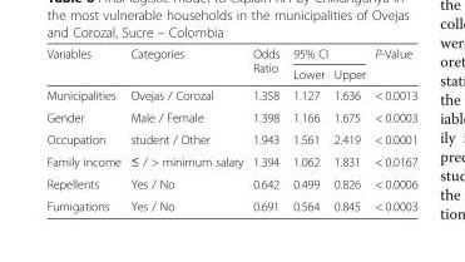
<table><thead><tr><td rowspan="2">Variables</td><td rowspan="2">Categories</td><td rowspan="2">Odds Ratio</td><td colspan="2">95% CI</td><td rowspan="2">P-Value</td></tr><tr><td>Lower</td><td>Upper</td></tr></thead><tbody><tr><td>Municipalities</td><td>Ovejas / Corozal</td><td>1.358</td><td>1.127</td><td>1.636</td><td>&lt; 0.0013</td></tr><tr><td>Gender</td><td>Male / Female</td><td>1.398</td><td>1.166</td><td>1.675</td><td>&lt; 0.0003</td></tr><tr><td>Occupation</td><td>student / Other</td><td>1.943</td><td>1.561</td><td>2.419</td><td>&lt; 0.0001</td></tr><tr><td>Family income</td><td>≤ / &gt; minimum salary</td><td>1.394</td><td>1.062</td><td>1.831</td><td>&lt; 0.0167</td></tr><tr><td>Repellents</td><td>Yes / No</td><td>0.642</td><td>0.499</td><td>0.826</td><td>&lt; 0.0006</td></tr><tr><td>Fumigations</td><td>Yes / No</td><td>0.691</td><td>0.564</td><td>0.845</td><td>&lt; 0.0003</td></tr></tbody></table>